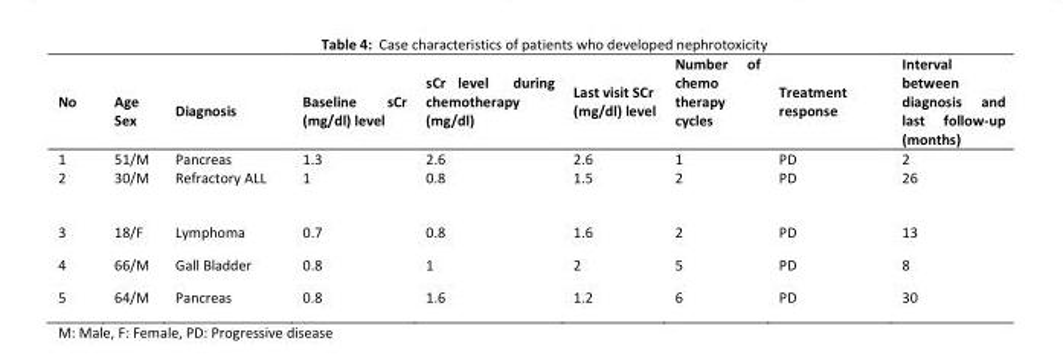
<table><thead><tr><td>No</td><td>Age Sex</td><td>Diagnosis</td><td>Baseline sCr (mg/dl) level</td><td>sCr level during chemotherapy (mg/dl)</td><td>Last visit SCr (mg/dl) level</td><td>Number of chemo therapy cycles</td><td>Treatment response</td><td>Interval between diagnosis and last follow-up (months)</td></tr></thead><tbody><tr><td>1</td><td>51/M</td><td>Pancreas</td><td>1.3</td><td>2.6</td><td>2.6</td><td>1</td><td>PD</td><td>2</td></tr><tr><td>2</td><td>30/M</td><td>Refractory ALL</td><td>1</td><td>0.8</td><td>1.5</td><td>2</td><td>PD</td><td>26</td></tr><tr><td>3</td><td>18/F</td><td>Lymphoma</td><td>0.7</td><td>0.8</td><td>1.6</td><td>2</td><td>PD</td><td>13</td></tr><tr><td>4</td><td>66/M</td><td>Gall Bladder</td><td>0.8</td><td>1</td><td>2</td><td>5</td><td>PD</td><td>8</td></tr><tr><td>5</td><td>64/M</td><td>Pancreas</td><td>0.8</td><td>1.6</td><td>1.2</td><td>6</td><td>PD</td><td>30</td></tr></tbody></table>